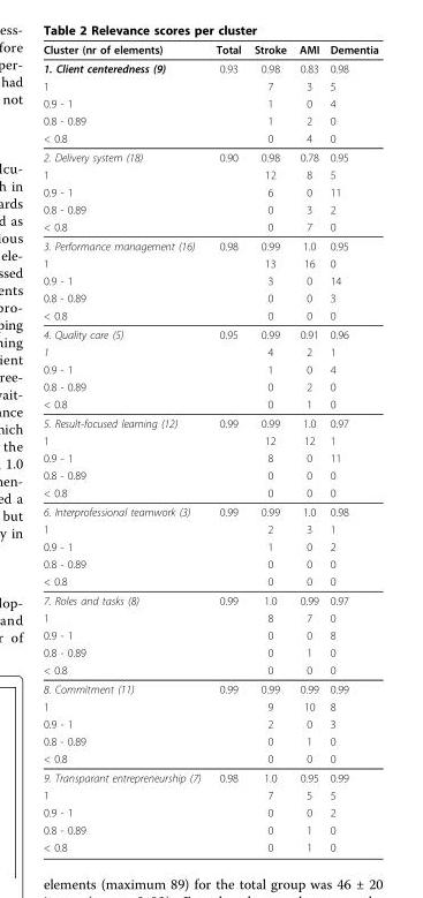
<table><thead><tr><td>Cluster (nr of elements)</td><td>Total</td><td>Stroke</td><td>AMI</td><td>Dementia</td></tr></thead><tbody><tr><td>1. Client centeredness (9)</td><td>0.93</td><td>0.98</td><td>0.83</td><td>0.98</td></tr><tr><td>1</td><td></td><td>7</td><td>3</td><td>5</td></tr><tr><td>0.9 - 1</td><td></td><td>1</td><td>0</td><td>4</td></tr><tr><td>0.8 - 0.89</td><td></td><td>1</td><td>2</td><td>0</td></tr><tr><td>&lt; 0.8</td><td></td><td>0</td><td>4</td><td>0</td></tr><tr><td>2. Delivery system (18)</td><td>0.90</td><td>0.98</td><td>0.78</td><td>0.95</td></tr><tr><td>1</td><td></td><td>12</td><td>8</td><td>5</td></tr><tr><td>0.9 - 1</td><td></td><td>6</td><td>0</td><td>11</td></tr><tr><td>0.8 - 0.89</td><td></td><td>0</td><td>3</td><td>2</td></tr><tr><td>&lt; 0.8</td><td></td><td>0</td><td>7</td><td>0</td></tr><tr><td>3. Performance management (16)</td><td>0.98</td><td>0.99</td><td>1.0</td><td>0.95</td></tr><tr><td>1</td><td></td><td>13</td><td>16</td><td>0</td></tr><tr><td>0.9 - 1</td><td></td><td>3</td><td>0</td><td>14</td></tr><tr><td>0.8 - 0.89</td><td></td><td>0</td><td>0</td><td>3</td></tr><tr><td>&lt; 0.8</td><td></td><td>0</td><td>0</td><td>0</td></tr><tr><td>4. Quality care (5)</td><td>0.95</td><td>0.99</td><td>0.91</td><td>0.96</td></tr><tr><td>1</td><td></td><td>4</td><td>2</td><td>1</td></tr><tr><td>0.9 - 1</td><td></td><td>1</td><td>0</td><td>4</td></tr><tr><td>0.8 - 0.89</td><td></td><td>0</td><td>2</td><td>0</td></tr><tr><td>&lt; 0.8</td><td></td><td>0</td><td>1</td><td>0</td></tr><tr><td>5. Result-focused learning (12)</td><td>0.99</td><td>0.99</td><td>1.0</td><td>0.97</td></tr><tr><td>1</td><td></td><td>12</td><td>12</td><td>1</td></tr><tr><td>0.9 - 1</td><td></td><td>8</td><td>0</td><td>11</td></tr><tr><td>0.8 - 0.89</td><td></td><td>0</td><td>0</td><td>0</td></tr><tr><td>&lt; 0.8</td><td></td><td>0</td><td>0</td><td>0</td></tr><tr><td>6. Interprofessional teamwork (3)</td><td>0.99</td><td>0.99</td><td>1.0</td><td>0.98</td></tr><tr><td>1</td><td></td><td>2</td><td>3</td><td>1</td></tr><tr><td>0.9 - 1</td><td></td><td>1</td><td>0</td><td>2</td></tr><tr><td>0.8 - 0.89</td><td></td><td>0</td><td>0</td><td>0</td></tr><tr><td>&lt; 0.8</td><td></td><td>0</td><td>0</td><td>0</td></tr><tr><td>7. Roles and tasks (8)</td><td>0.99</td><td>1.0</td><td>0.99</td><td>0.97</td></tr><tr><td>1</td><td></td><td>8</td><td>7</td><td>0</td></tr><tr><td>0.9 - 1</td><td></td><td>0</td><td>0</td><td>8</td></tr><tr><td>0.8 - 0.89</td><td></td><td>0</td><td>1</td><td>0</td></tr><tr><td>&lt; 0.8</td><td></td><td>0</td><td>0</td><td>0</td></tr><tr><td>8. Commitment (11)</td><td>0.99</td><td>0.99</td><td>0.99</td><td>0.99</td></tr><tr><td>1</td><td></td><td>9</td><td>10</td><td>8</td></tr><tr><td>0.9 - 1</td><td></td><td>2</td><td>0</td><td>3</td></tr><tr><td>0.8 - 0.89</td><td></td><td>0</td><td>1</td><td>0</td></tr><tr><td>&lt; 0.8</td><td></td><td>0</td><td>0</td><td>0</td></tr><tr><td>9. Transparant entrepreneurship (7)</td><td>0.98</td><td>1.0</td><td>0.95</td><td>0.99</td></tr><tr><td>1</td><td></td><td>7</td><td>5</td><td>5</td></tr><tr><td>0.9 - 1</td><td></td><td>0</td><td>0</td><td>2</td></tr><tr><td>0.8 - 0.89</td><td></td><td>0</td><td>1</td><td>0</td></tr><tr><td>&lt; 0.8</td><td></td><td>0</td><td>1</td><td>0</td></tr></tbody></table>